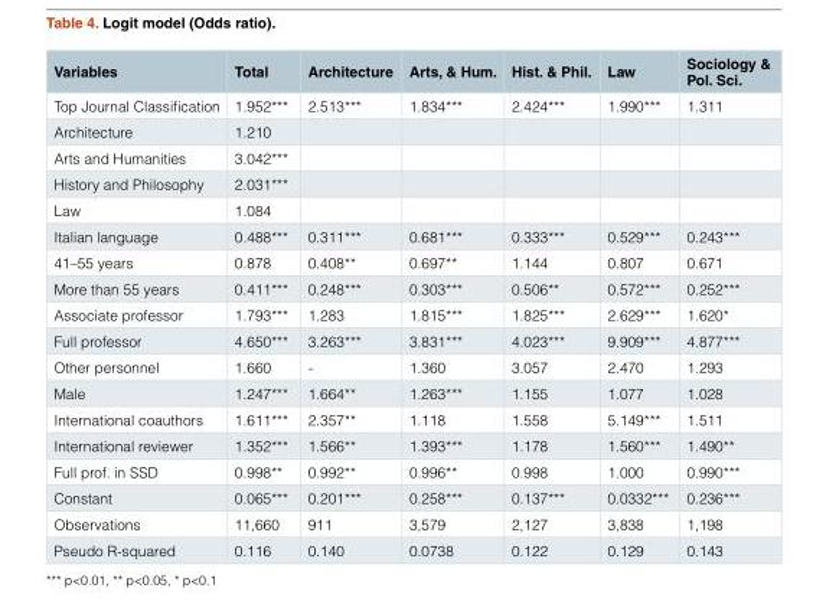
<table><thead><tr><td>Variables</td><td>Total</td><td>Architecture</td><td>Arts, &amp; Hum.</td><td>Hist. &amp; Phil.</td><td>Law</td><td>Sociology &amp; Pol. Sci.</td></tr></thead><tbody><tr><td>Top Journal Classification</td><td>1.952***</td><td>2.513***</td><td>1.834***</td><td>2.424***</td><td>1.990***</td><td>1.311</td></tr><tr><td>Architecture</td><td>1.210</td><td></td><td></td><td></td><td></td><td></td></tr><tr><td>Arts and Humanities</td><td>3.042***</td><td></td><td></td><td></td><td></td><td></td></tr><tr><td>History and Philosophy</td><td>2.031***</td><td></td><td></td><td></td><td></td><td></td></tr><tr><td>Law</td><td>1.084</td><td></td><td></td><td></td><td></td><td></td></tr><tr><td>Italian language</td><td>0.488***</td><td>0.311***</td><td>0.681***</td><td>0.333***</td><td>0.529***</td><td>0.243***</td></tr><tr><td>41–55 years</td><td>0.878</td><td>0.408**</td><td>0.697**</td><td>1.144</td><td>0.807</td><td>0.671</td></tr><tr><td>More than 55 years</td><td>0.411***</td><td>0.248***</td><td>0.303***</td><td>0.506**</td><td>0.572***</td><td>0.252***</td></tr><tr><td>Associate professor</td><td>1.793***</td><td>1.283</td><td>1.815***</td><td>1.825***</td><td>2.629***</td><td>1.620*</td></tr><tr><td>Full professor</td><td>4.650***</td><td>3.263***</td><td>3.831***</td><td>4.023***</td><td>9.909***</td><td>4.877***</td></tr><tr><td>Other personnel</td><td>1.660</td><td>-</td><td>1.360</td><td>3.057</td><td>2.470</td><td>1.293</td></tr><tr><td>Male</td><td>1.247***</td><td>1.664**</td><td>1.263***</td><td>1.155</td><td>1.077</td><td>1.028</td></tr><tr><td>International coauthors</td><td>1.611***</td><td>2.357**</td><td>1.118</td><td>1.558</td><td>5.149***</td><td>1.511</td></tr><tr><td>International reviewer</td><td>1.352***</td><td>1.566**</td><td>1.393***</td><td>1.178</td><td>1.560***</td><td>1.490**</td></tr><tr><td>Full prof. in SSD</td><td>0.998**</td><td>0.992**</td><td>0.996**</td><td>0.998</td><td>1.000</td><td>0.990***</td></tr><tr><td>Constant</td><td>0.065***</td><td>0.201***</td><td>0.258***</td><td>0.137***</td><td>0.0332***</td><td>0.236***</td></tr><tr><td>Observations</td><td>11,660</td><td>911</td><td>3,579</td><td>2,127</td><td>3,838</td><td>1,198</td></tr><tr><td>Pseudo R-squared</td><td>0.116</td><td>0.140</td><td>0.0738</td><td>0.122</td><td>0.129</td><td>0.143</td></tr></tbody></table>